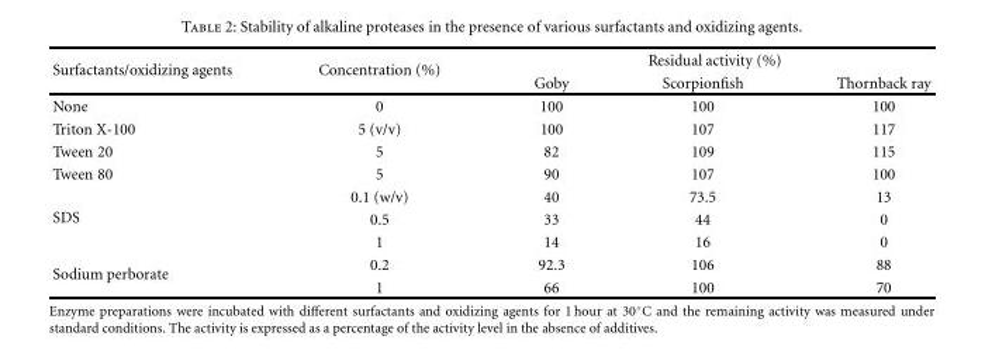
<table><thead><tr><td rowspan="2">Surfactants/oxidizing agents</td><td rowspan="2">Concentration (%)</td><td colspan="3">Residual activity (%)</td></tr><tr><td>Goby</td><td>Scorpionfish</td><td>Thornback ray</td></tr></thead><tbody><tr><td>None</td><td>0</td><td>100</td><td>100</td><td>100</td></tr><tr><td>Triton X-100</td><td>5 (v/v)</td><td>100</td><td>107</td><td>117</td></tr><tr><td>Tween 20</td><td>5</td><td>82</td><td>109</td><td>115</td></tr><tr><td>Tween 80</td><td>5</td><td>90</td><td>107</td><td>100</td></tr><tr><td rowspan="3">SDS</td><td>0.1 (w/v)</td><td>40</td><td>73.5</td><td>13</td></tr><tr><td>0.5</td><td>33</td><td>44</td><td>0</td></tr><tr><td>1</td><td>14</td><td>16</td><td>0</td></tr><tr><td rowspan="2">Sodium perborate</td><td>0.2</td><td>92.3</td><td>106</td><td>88</td></tr><tr><td>1</td><td>66</td><td>100</td><td>70</td></tr></tbody></table>